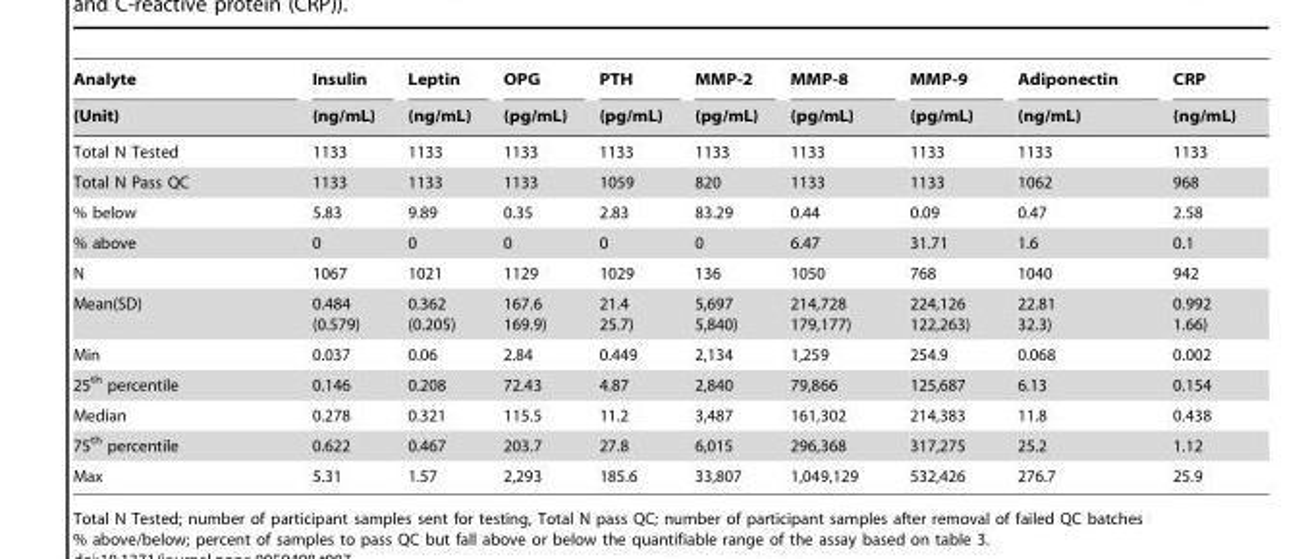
<table><thead><tr><td rowspan="2">Analyte (Unit)</td><td rowspan="2">Insulin (ng/mL)</td><td rowspan="2">Leptin (ng/mL)</td><td rowspan="2">OPG (pg/mL)</td><td rowspan="2">PTH (pg/mL)</td><td rowspan="2">MMP-2 (pg/mL)</td><td rowspan="2">MMP-8 (pg/mL)</td><td rowspan="2">MMP-9 (pg/mL)</td><td rowspan="2">Adiponectin (ng/mL)</td><td rowspan="2">CRP (ng/mL)</td></tr><tr></tr></thead><tbody><tr><td>Total N Tested</td><td>1133</td><td>1133</td><td>1133</td><td>1133</td><td>1133</td><td>1133</td><td>1133</td><td>1133</td><td>1133</td></tr><tr><td>Total N Pass QC</td><td>1133</td><td>1133</td><td>1133</td><td>1059</td><td>820</td><td>1133</td><td>1133</td><td>1062</td><td>968</td></tr><tr><td>% below</td><td>5.83</td><td>9.89</td><td>0.35</td><td>2.83</td><td>83.29</td><td>0.44</td><td>0.09</td><td>0.47</td><td>2.58</td></tr><tr><td>% above</td><td>0</td><td>0</td><td>0</td><td>0</td><td>0</td><td>6.47</td><td>31.71</td><td>1.6</td><td>0.1</td></tr><tr><td>N</td><td>1067</td><td>1021</td><td>1129</td><td>1029</td><td>136</td><td>1050</td><td>768</td><td>1040</td><td>942</td></tr><tr><td>Mean(SD)</td><td>0.484 (0.579)</td><td>0.362 (0.205)</td><td>167.6 169.9)</td><td>21.4 25.7)</td><td>5,697 5,840)</td><td>214,728 179,177)</td><td>224,126 122,263)</td><td>22.81 32.3)</td><td>0.992 1.66)</td></tr><tr><td>Min</td><td>0.037</td><td>0.06</td><td>2.84</td><td>0.449</td><td>2,134</td><td>1,259</td><td>254.9</td><td>0.068</td><td>0.002</td></tr><tr><td>25<sup>th</sup> percentile</td><td>0.146</td><td>0.208</td><td>72.43</td><td>4.87</td><td>2,840</td><td>79,866</td><td>125,687</td><td>6.13</td><td>0.154</td></tr><tr><td>Median</td><td>0.278</td><td>0.321</td><td>115.5</td><td>11.2</td><td>3,487</td><td>161,302</td><td>214,383</td><td>11.8</td><td>0.438</td></tr><tr><td>75<sup>th</sup> percentile</td><td>0.622</td><td>0.467</td><td>203.7</td><td>27.8</td><td>6,015</td><td>296,368</td><td>317,275</td><td>25.2</td><td>1.12</td></tr><tr><td>Max</td><td>5.31</td><td>1.57</td><td>2,293</td><td>185.6</td><td>33,807</td><td>1,049,129</td><td>532,426</td><td>276.7</td><td>25.9</td></tr></tbody></table>